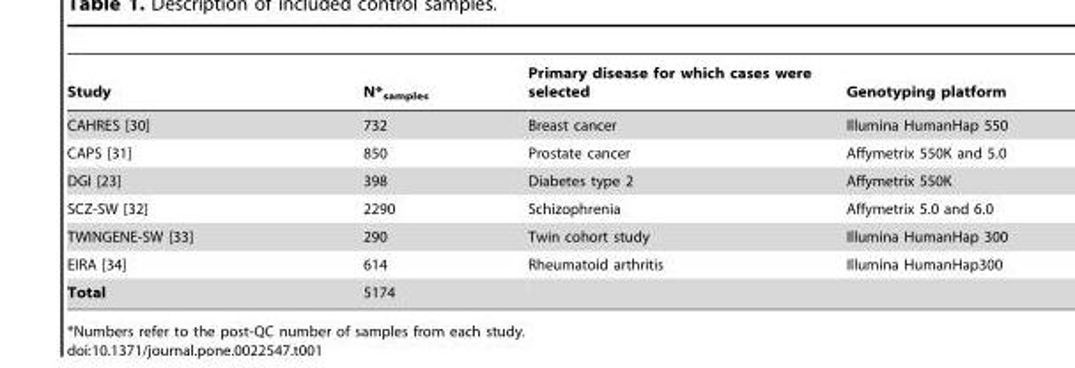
<table><thead><tr><td>Study</td><td>N*<sub>samples</sub></td><td>Primary disease for which cases were selected</td><td>Genotyping platform</td></tr></thead><tbody><tr><td>CAHRES [30]</td><td>732</td><td>Breast cancer</td><td>Illumina HumanHap 550</td></tr><tr><td>CAPS [31]</td><td>850</td><td>Prostate cancer</td><td>Affymetrix 550K and 5.0</td></tr><tr><td>DGI [23]</td><td>398</td><td>Diabetes type 2</td><td>Affymetrix 550K</td></tr><tr><td>SCZ-SW [32]</td><td>2290</td><td>Schizophrenia</td><td>Affymetrix 5.0 and 6.0</td></tr><tr><td>TWINGENE-SW [33]</td><td>290</td><td>Twin cohort study</td><td>Illumina HumanHap 300</td></tr><tr><td>EIRA [34]</td><td>614</td><td>Rheumatoid arthritis</td><td>Illumina HumanHap300</td></tr><tr><td>Total</td><td>5174</td><td></td><td></td></tr></tbody></table>